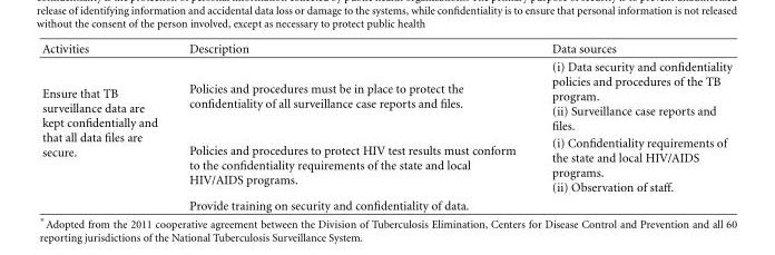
<table><thead><tr><td>Activities</td><td>Description</td><td>Data sources</td></tr></thead><tbody><tr><td rowspan="3">Ensure that TB surveillance data are kept confidentially and that all data files are secure.</td><td>Policies and procedures must be in place to protect the confidentiality of all surveillance case reports and files.</td><td>(i) Data security and confidentiality policies and procedures of the TB program. (ii) Surveillance case reports and files.</td></tr><tr><td>Policies and procedures to protect HIV test results must conform to the confidentiality requirements of the state and local HIV/AIDS programs.</td><td>(i) Confidentiality requirements of the state and local HIV/AIDS programs. (ii) Observation of staff.</td></tr><tr><td>Provide training on security and confidentiality of data.</td><td></td></tr></tbody></table>